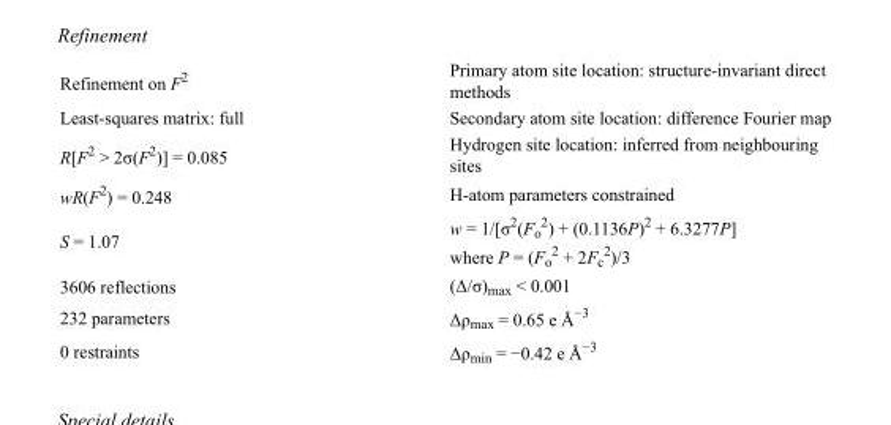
<table><tbody><tr><td>Refinement on F<sup>2</sup></td><td>Primary atom site location: structure-invariant direct methods</td></tr><tr><td>Least-squares matrix: full</td><td>Secondary atom site location: difference Fourier map</td></tr><tr><td>R[F<sup>2</sup> &gt; 2σ(F<sup>2</sup>)] = 0.085</td><td>Hydrogen site location: inferred from neighbouring sites</td></tr><tr><td>wR(F<sup>2</sup>) = 0.248</td><td>H-atom parameters constrained</td></tr><tr><td>S = 1.07</td><td>w = 1/[σ<sup>2</sup>(F<sub>o</sub> <sup>2</sup>) + (0.1136P)<sup>2</sup> + 6.3277P] where P = (F<sub>o</sub> <sup>2</sup> + 2F<sub>c</sub> <sup>2</sup>)/3</td></tr><tr><td>3606 reflections</td><td>(Δ/σ)<sub>max</sub> &lt; 0.001</td></tr><tr><td>232 parameters</td><td>Δρ<sub>max</sub> = 0.65 e Å<sup>−3</sup></td></tr><tr><td>0 restraints</td><td>Δρ<sub>min</sub> = −0.42 e Å<sup>−3</sup></td></tr></tbody></table>